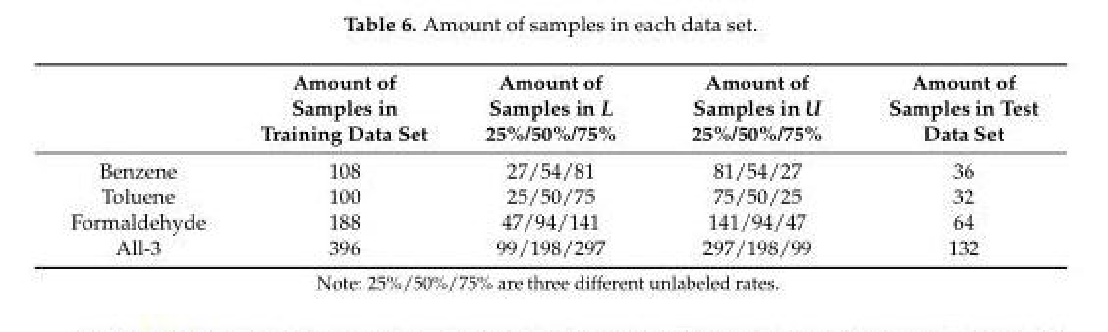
<table><thead><tr><td></td><td>Amount of Samples in Training Data Set</td><td>Amount of Samples in L 25%/50%/75%</td><td>Amount of Samples in U 25%/50%/75%</td><td>Amount of Samples in Test Data Set</td></tr></thead><tbody><tr><td>Benzene</td><td>108</td><td>27/54/81</td><td>81/54/27</td><td>36</td></tr><tr><td>Toluene</td><td>100</td><td>25/50/75</td><td>75/50/25</td><td>32</td></tr><tr><td>Formaldehyde</td><td>188</td><td>47/94/141</td><td>141/94/47</td><td>64</td></tr><tr><td>All-3</td><td>396</td><td>99/198/297</td><td>297/198/99</td><td>132</td></tr></tbody></table>